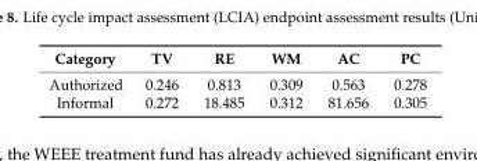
<table><thead><tr><td>Category</td><td>TV</td><td>RE</td><td>WM</td><td>AC</td><td>PC</td></tr></thead><tbody><tr><td>Authorized</td><td>0.246</td><td>0.813</td><td>0.309</td><td>0.563</td><td>0.278</td></tr><tr><td>Informal</td><td>0.272</td><td>18.485</td><td>0.312</td><td>81.656</td><td>0.305</td></tr></tbody></table>